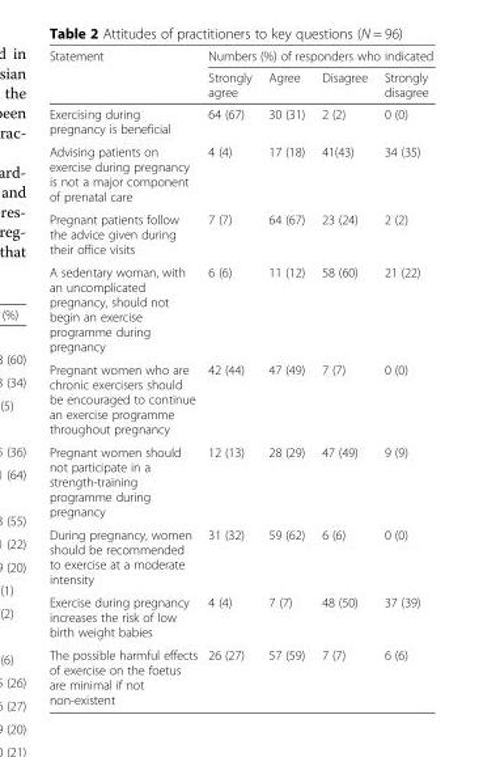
<table><thead><tr><td rowspan="2">Statement</td><td colspan="4">Numbers (%) of responders who indicated</td></tr><tr><td>Strongly agree</td><td>Agree</td><td>Disagree</td><td>Strongly disagree</td></tr></thead><tbody><tr><td>Exercising during pregnancy is beneficial</td><td>64 (67)</td><td>30 (31)</td><td>2 (2)</td><td>0 (0)</td></tr><tr><td>Advising patients on exercise during pregnancy is not a major component of prenatal care</td><td>4 (4)</td><td>17 (18)</td><td>41(43)</td><td>34 (35)</td></tr><tr><td>Pregnant patients follow the advice given during their office visits</td><td>7 (7)</td><td>64 (67)</td><td>23 (24)</td><td>2 (2)</td></tr><tr><td>A sedentary woman, with an uncomplicated pregnancy, should not begin an exercise programme during pregnancy</td><td>6 (6)</td><td>11 (12)</td><td>58 (60)</td><td>21 (22)</td></tr><tr><td>Pregnant women who are chronic exercisers should be encouraged to continue an exercise programme throughout pregnancy</td><td>42 (44)</td><td>47 (49)</td><td>7 (7)</td><td>0 (0)</td></tr><tr><td>Pregnant women should not participate in a strength-training programme during pregnancy</td><td>12 (13)</td><td>28 (29)</td><td>47 (49)</td><td>9 (9)</td></tr><tr><td>During pregnancy, women should be recommended to exercise at a moderate intensity</td><td>31 (32)</td><td>59 (62)</td><td>6 (6)</td><td>0 (0)</td></tr><tr><td>Exercise during pregnancy increases the risk of low birth weight babies</td><td>4 (4)</td><td>7 (7)</td><td>48 (50)</td><td>37 (39)</td></tr><tr><td>The possible harmful effects of exercise on the foetus are minimal if not non-existent</td><td>26 (27)</td><td>57 (59)</td><td>7 (7)</td><td>6 (6)</td></tr></tbody></table>